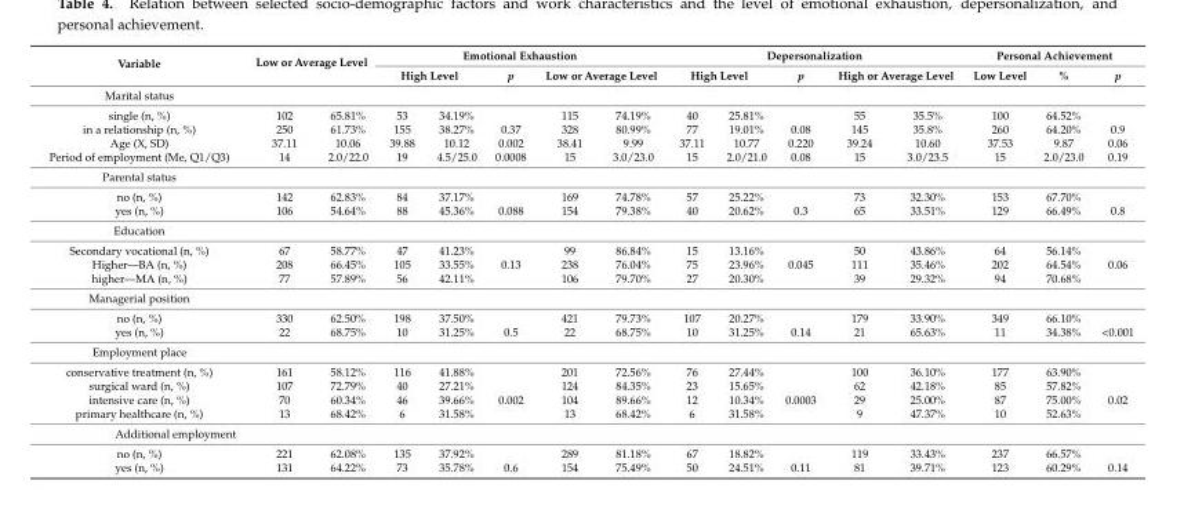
<table><thead><tr><td rowspan="3">Variable Marital status</td><td rowspan="2" colspan="2">Low or Average Level</td><td colspan="5">Emotional Exhaustion</td><td colspan="5">Depersonalization</td><td colspan="3">Personal Achievement</td></tr><tr><td colspan="2">High Level</td><td rowspan="2">p</td><td colspan="2">Low or Average Level</td><td colspan="2">High Level</td><td rowspan="2">p</td><td colspan="2">High or Average Level</td><td rowspan="2">Low Level</td><td rowspan="2">%</td><td rowspan="2">p</td></tr><tr><td></td><td></td><td></td><td></td><td></td><td></td><td></td><td></td><td></td><td></td></tr></thead><tbody><tr><td>single (n, %)</td><td>102</td><td>65.81%</td><td>53</td><td>34.19%</td><td></td><td>115</td><td>74.19%</td><td>40</td><td>25.81%</td><td></td><td>55</td><td>35.5%</td><td>100</td><td>64.52%</td><td></td></tr><tr><td>in a relationship (n, %)</td><td>250</td><td>61.73%</td><td>155</td><td>38.27%</td><td>0.37</td><td>328</td><td>80.99%</td><td>77</td><td>19.01%</td><td>0.08</td><td>145</td><td>35.8%</td><td>260</td><td>64.20%</td><td>0.9</td></tr><tr><td>Age (X, SD)</td><td>37.11</td><td>10.06</td><td>39.88</td><td>10.12</td><td>0.002</td><td>38.41</td><td>9.99</td><td>37.11</td><td>10.77</td><td>0.220</td><td>39.24</td><td>10.60</td><td>37.53</td><td>9.87</td><td>0.06</td></tr><tr><td>Period of employment (Me, Q1/Q3)</td><td>14</td><td>2.0/22.0</td><td>19</td><td>4.5/25.0</td><td>0.0008</td><td>15</td><td>3.0/23.0</td><td>15</td><td>2.0/21.0</td><td>0.08</td><td>15</td><td>3.0/23.5</td><td>15</td><td>2.0/23.0</td><td>0.19</td></tr><tr><td colspan="16">Parental status</td></tr><tr><td>no (n, %)</td><td>142</td><td>62.83%</td><td>84</td><td>37.17%</td><td></td><td>169</td><td>74.78%</td><td>57</td><td>25.22%</td><td></td><td>73</td><td>32.30%</td><td>153</td><td>67.70%</td><td></td></tr><tr><td>yes (n, %)</td><td>106</td><td>54.64%</td><td>88</td><td>45.36%</td><td>0.088</td><td>154</td><td>79.38%</td><td>40</td><td>20.62%</td><td>0.3</td><td>65</td><td>33.51%</td><td>129</td><td>66.49%</td><td>0.8</td></tr><tr><td colspan="16">Education</td></tr><tr><td>Secondary vocational (n, %)</td><td>67</td><td>58.77%</td><td>47</td><td>41.23%</td><td></td><td>99</td><td>86.84%</td><td>15</td><td>13.16%</td><td></td><td>50</td><td>43.86%</td><td>64</td><td>56.14%</td><td></td></tr><tr><td>Higher—BA (n, %)</td><td>208</td><td>66.45%</td><td>105</td><td>33.55%</td><td>0.13</td><td>238</td><td>76.04%</td><td>75</td><td>23.96%</td><td>0.045</td><td>111</td><td>35.46%</td><td>202</td><td>64.54%</td><td>0.06</td></tr><tr><td>higher—MA (n, %)</td><td>77</td><td>57.89%</td><td>56</td><td>42.11%</td><td></td><td>106</td><td>79.70%</td><td>27</td><td>20.30%</td><td></td><td>39</td><td>29.32%</td><td>94</td><td>70.68%</td><td></td></tr><tr><td colspan="16">Managerial position</td></tr><tr><td>no (n, %)</td><td>330</td><td>62.50%</td><td>198</td><td>37.50%</td><td></td><td>421</td><td>79.73%</td><td>107</td><td>20.27%</td><td></td><td>179</td><td>33.90%</td><td>349</td><td>66.10%</td><td></td></tr><tr><td>yes (n, %)</td><td>22</td><td>68.75%</td><td>10</td><td>31.25%</td><td>0.5</td><td>22</td><td>68.75%</td><td>10</td><td>31.25%</td><td>0.14</td><td>21</td><td>65.63%</td><td>11</td><td>34.38%</td><td>&lt;0.001</td></tr><tr><td colspan="16">Employment place</td></tr><tr><td>conservative treatment (n, %)</td><td>161</td><td>58.12%</td><td>116</td><td>41.88%</td><td></td><td>201</td><td>72.56%</td><td>76</td><td>27.44%</td><td></td><td>100</td><td>36.10%</td><td>177</td><td>63.90%</td><td></td></tr><tr><td>surgical ward (n, %)</td><td>107</td><td>72.79%</td><td>40</td><td>27.21%</td><td></td><td>124</td><td>84.35%</td><td>23</td><td>15.65%</td><td></td><td>62</td><td>42.18%</td><td>85</td><td>57.82%</td><td></td></tr><tr><td>intensive care (n, %)</td><td>70</td><td>60.34%</td><td>46</td><td>39.66%</td><td>0.002</td><td>104</td><td>89.66%</td><td>12</td><td>10.34%</td><td>0.0003</td><td>29</td><td>25.00%</td><td>87</td><td>75.00%</td><td>0.02</td></tr><tr><td>primary healthcare (n, %)</td><td>13</td><td>68.42%</td><td>6</td><td>31.58%</td><td></td><td>13</td><td>68.42%</td><td>6</td><td>31.58%</td><td></td><td>9</td><td>47.37%</td><td>10</td><td>52.63%</td><td></td></tr><tr><td colspan="16">Additional employment</td></tr><tr><td>no (n, %)</td><td>221</td><td>62.08%</td><td>135</td><td>37.92%</td><td></td><td>289</td><td>81.18%</td><td>67</td><td>18.82%</td><td></td><td>119</td><td>33.43%</td><td>237</td><td>66.57%</td><td></td></tr><tr><td>yes (n, %)</td><td>131</td><td>64.22%</td><td>73</td><td>35.78%</td><td>0.6</td><td>154</td><td>75.49%</td><td>50</td><td>24.51%</td><td>0.11</td><td>81</td><td>39.71%</td><td>123</td><td>60.29%</td><td>0.14</td></tr></tbody></table>